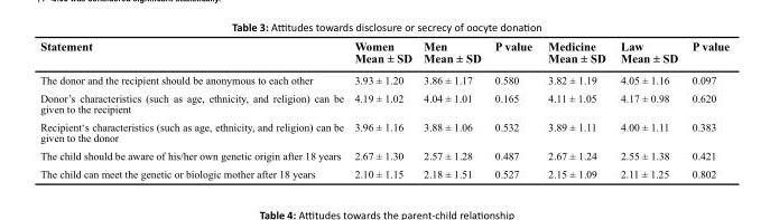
<table><thead><tr><td>Statement</td><td>Women Mean ± SD</td><td>Men Mean ± SD</td><td>P value</td><td>Medicine Mean ± SD</td><td>Law Mean ± SD</td><td>P value</td></tr></thead><tbody><tr><td>The donor and the recipient should be anonymous to each other</td><td>3.93 ± 1.20</td><td>3.86 ± 1.17</td><td>0.580</td><td>3.82 ± 1.19</td><td>4.05 ± 1.16</td><td>0.097</td></tr><tr><td>Donor’s characteristics (such as age, ethnicity, and religion) can be given to the recipient</td><td>4.19 ± 1.02</td><td>4.04 ± 1.01</td><td>0.165</td><td>4.11 ± 1.05</td><td>4.17 ± 0.98</td><td>0.620</td></tr><tr><td>Recipient‘s characteristics (such as age, ethnicity, and religion) can be given to the donor</td><td>3.96 ± 1.16</td><td>3.88 ± 1.06</td><td>0.532</td><td>3.89 ± 1.11</td><td>4.00 ± 1.11</td><td>0.383</td></tr><tr><td>The child should be aware of his/her own genetic origin after 18 years</td><td>2.67 ± 1.30</td><td>2.57 ± 1.28</td><td>0.487</td><td>2.67 ± 1.24</td><td>2.55 ± 1.38</td><td>0.421</td></tr><tr><td>The child can meet the genetic or biologic mother after 18 years</td><td>2.10 ± 1.15</td><td>2.18 ± 1.51</td><td>0.527</td><td>2.15 ± 1.09</td><td>2.11 ± 1.25</td><td>0.802</td></tr></tbody></table>